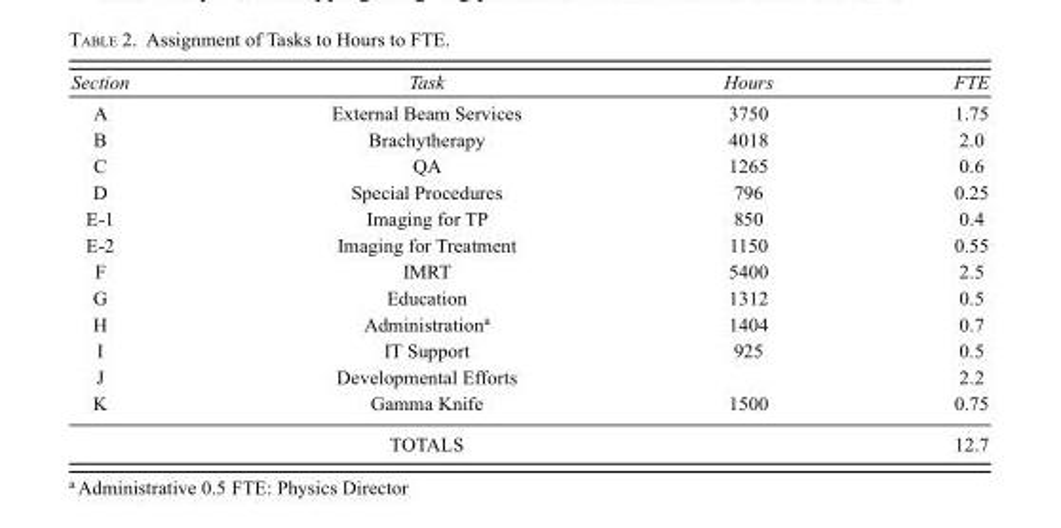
<table><thead><tr><td>Section</td><td>Task</td><td>Hours</td><td>FTE</td></tr></thead><tbody><tr><td>A</td><td>External Beam Services</td><td>3750</td><td>1.75</td></tr><tr><td>B</td><td>Brachytherapy</td><td>4018</td><td>2.0</td></tr><tr><td>C</td><td>QA</td><td>1265</td><td>0.6</td></tr><tr><td>D</td><td>Special Procedures</td><td>796</td><td>0.25</td></tr><tr><td>E-1</td><td>Imaging for TP</td><td>850</td><td>0.4</td></tr><tr><td>E-2</td><td>Imaging for Treatment</td><td>1150</td><td>0.55</td></tr><tr><td>F</td><td>IMRT</td><td>5400</td><td>2.5</td></tr><tr><td>G</td><td>Education</td><td>1312</td><td>0.5</td></tr><tr><td>H</td><td>Administration<sup>a</sup></td><td>1404</td><td>0.7</td></tr><tr><td>I</td><td>IT Support</td><td>925</td><td>0.5</td></tr><tr><td>J</td><td>Developmental Efforts</td><td></td><td>2.2</td></tr><tr><td rowspan="2">K</td><td>Gamma Knife</td><td>1500</td><td>0.75</td></tr><tr><td>TOTALS</td><td></td><td>12.7</td></tr></tbody></table>